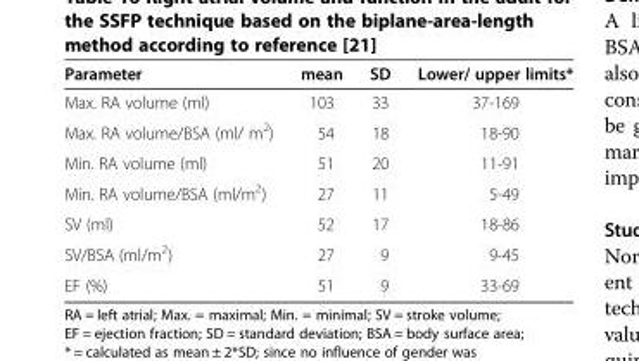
<table><thead><tr><td>Parameter</td><td>mean</td><td>SD</td><td>Lower/ upper limits*</td></tr></thead><tbody><tr><td>Max. RA volume (ml)</td><td>103</td><td>33</td><td>37-169</td></tr><tr><td>Max. RA volume/BSA (ml/ m<sup>2</sup>)</td><td>54</td><td>18</td><td>18-90</td></tr><tr><td>Min. RA volume (ml)</td><td>51</td><td>20</td><td>11-91</td></tr><tr><td>Min. RA volume/BSA (ml/m<sup>2</sup>)</td><td>27</td><td>11</td><td>5-49</td></tr><tr><td>SV (ml)</td><td>52</td><td>17</td><td>18-86</td></tr><tr><td>SV/BSA (ml/m<sup>2</sup>)</td><td>27</td><td>9</td><td>9-45</td></tr><tr><td>EF (%)</td><td>51</td><td>9</td><td>33-69</td></tr></tbody></table>